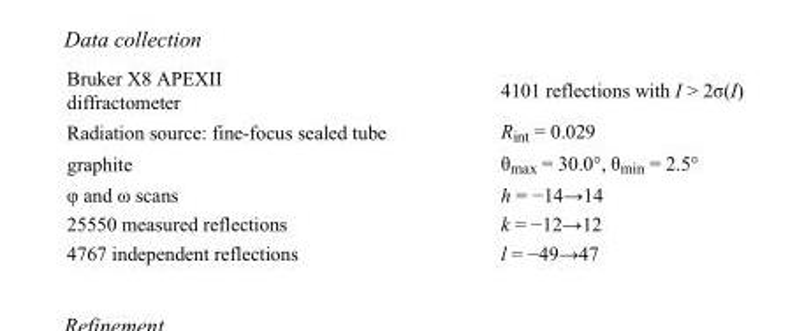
<table><tbody><tr><td>Bruker X8 APEXII diffractometer</td><td>4101 reflections with I &gt; 2σ(I)</td></tr><tr><td>Radiation source: fine-focus sealed tube</td><td>R<sub>int</sub> = 0.029</td></tr><tr><td>graphite</td><td>θ<sub>max</sub> = 30.0°, θ<sub>min</sub> = 2.5°</td></tr><tr><td>φ and ω scans</td><td>h = −14→14</td></tr><tr><td>25550 measured reflections</td><td>k = −12→12</td></tr><tr><td>4767 independent reflections</td><td>l = −49→47</td></tr></tbody></table>